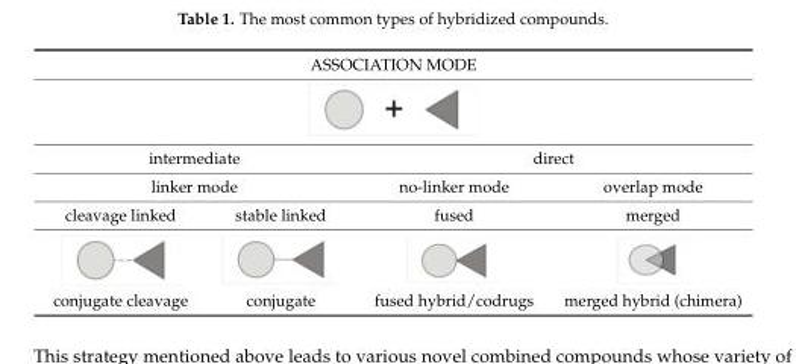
<table><tbody><tr><td colspan="4">ASSOCIATION MODE</td></tr><tr><td colspan="2">intermediate</td><td colspan="2">direct</td></tr><tr><td colspan="2">linker mode</td><td>no-linker mode</td><td>overlap mode</td></tr><tr><td>cleavage linked</td><td>stable linked</td><td>fused</td><td>merged</td></tr><tr><td>conjugate cleavage</td><td>conjugate</td><td>fused hybrid/codrugs</td><td>merged hybrid (chimera)</td></tr></tbody></table>